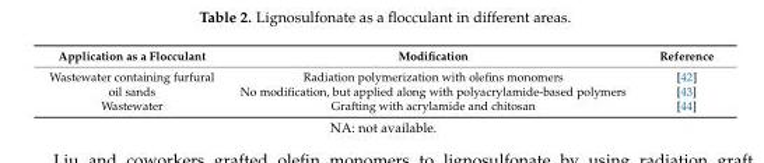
<table><thead><tr><td>Application as a Flocculant</td><td>Modification</td><td>Reference</td></tr></thead><tbody><tr><td>Wastewater containing furfural</td><td>Radiation polymerization with olefins monomers</td><td>[42]</td></tr><tr><td>oil sands</td><td>No modification, but applied along with polyacrylamide-based polymers</td><td>[43]</td></tr><tr><td>Wastewater</td><td>Grafting with acrylamide and chitosan</td><td>[44]</td></tr></tbody></table>